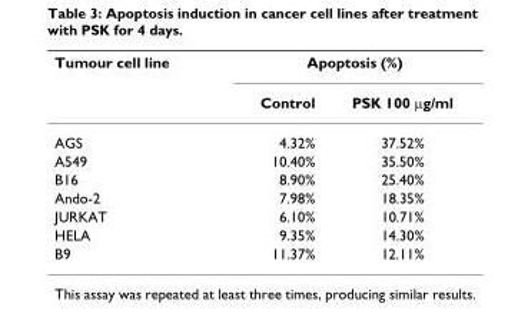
<table><thead><tr><td rowspan="2">Tumour cell line</td><td colspan="2">Apoptosis (%)</td></tr><tr><td>Control</td><td>PSK 100 μg/ml</td></tr></thead><tbody><tr><td>AGS</td><td>4.32%</td><td>37.52%</td></tr><tr><td>A549</td><td>10.40%</td><td>35.50%</td></tr><tr><td>B16</td><td>8.90%</td><td>25.40%</td></tr><tr><td>Ando-2</td><td>7.98%</td><td>18.35%</td></tr><tr><td>JURKAT</td><td>6.10%</td><td>10.71%</td></tr><tr><td>HELA</td><td>9.35%</td><td>14.30%</td></tr><tr><td>B9</td><td>11.37%</td><td>12.11%</td></tr></tbody></table>